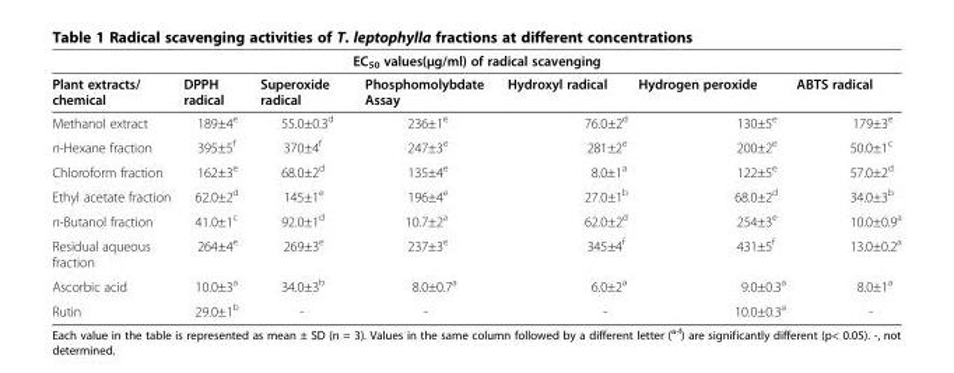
<table><thead><tr><td colspan="7">EC<sub>50</sub> values(μg/ml) of radical scavenging</td></tr><tr><td>Plant extracts/ chemical</td><td>DPPH radical</td><td>Superoxide radical</td><td>Phosphomolybdate Assay</td><td>Hydroxyl radical</td><td>Hydrogen peroxide</td><td>ABTS radical</td></tr></thead><tbody><tr><td>Methanol extract</td><td>189±4<sup>e</sup></td><td>55.0±0.3<sup>d</sup></td><td>236±1<sup>e</sup></td><td>76.0±2<sup>d</sup></td><td>130±5<sup>e</sup></td><td>179±3<sup>e</sup></td></tr><tr><td>n-Hexane fraction</td><td>395±5<sup>f</sup></td><td>370±4<sup>f</sup></td><td>247±3<sup>e</sup></td><td>281±2<sup>e</sup></td><td>200±2<sup>e</sup></td><td>50.0±1<sup>c</sup></td></tr><tr><td>Chloroform fraction</td><td>162±3<sup>e</sup></td><td>68.0±2<sup>d</sup></td><td>135±4<sup>e</sup></td><td>8.0±1<sup>a</sup></td><td>122±5<sup>e</sup></td><td>57.0±2<sup>d</sup></td></tr><tr><td>Ethyl acetate fraction</td><td>62.0±2<sup>d</sup></td><td>145±1<sup>e</sup></td><td>196±4<sup>e</sup></td><td>27.0±1<sup>b</sup></td><td>68.0±2<sup>d</sup></td><td>34.0±3<sup>b</sup></td></tr><tr><td>n-Butanol fraction</td><td>41.0±1<sup>c</sup></td><td>92.0±1<sup>d</sup></td><td>10.7±2<sup>a</sup></td><td>62.0±2<sup>d</sup></td><td>254±3<sup>e</sup></td><td>10.0±0.9<sup>a</sup></td></tr><tr><td>Residual aqueous fraction</td><td>264±4<sup>e</sup></td><td>269±3<sup>e</sup></td><td>237±3<sup>e</sup></td><td>345±4<sup>f</sup></td><td>431±5<sup>f</sup></td><td>13.0±0.2<sup>a</sup></td></tr><tr><td>Ascorbic acid</td><td>10.0±3<sup>a</sup></td><td>34.0±3<sup>b</sup></td><td>8.0±0.7<sup>a</sup></td><td>6.0±2<sup>a</sup></td><td>9.0±0.3<sup>a</sup></td><td>8.0±1<sup>a</sup></td></tr><tr><td>Rutin</td><td>29.0±1<sup>b</sup></td><td>-</td><td>-</td><td>-</td><td>10.0±0.3<sup>a</sup></td><td>-</td></tr></tbody></table>